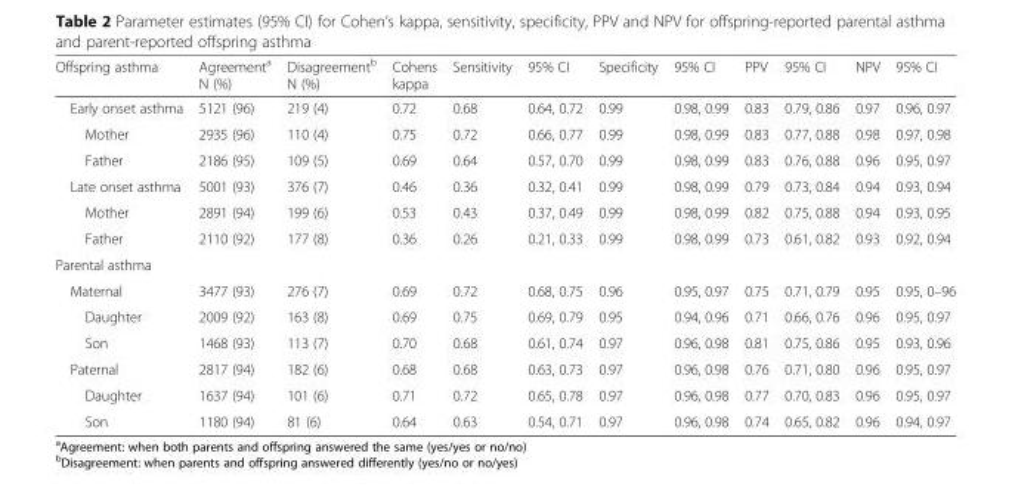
<table><thead><tr><td>Offspring asthma</td><td>Agreement<sup>a</sup> N (%)</td><td>Disagreement<sup>b</sup> N (%)</td><td>Cohens kappa</td><td>Sensitivity</td><td>95% CI</td><td>Specificity</td><td>95% CI</td><td>PPV</td><td>95% CI</td><td>NPV</td><td>95% CI</td></tr></thead><tbody><tr><td>Early onset asthma</td><td>5121 (96)</td><td>219 (4)</td><td>0.72</td><td>0.68</td><td>0.64, 0.72</td><td>0.99</td><td>0.98, 0.99</td><td>0.83</td><td>0.79, 0.86</td><td>0.97</td><td>0.96, 0.97</td></tr><tr><td>Mother</td><td>2935 (96)</td><td>110 (4)</td><td>0.75</td><td>0.72</td><td>0.66, 0.77</td><td>0.99</td><td>0.98, 0.99</td><td>0.83</td><td>0.77, 0.88</td><td>0.98</td><td>0.97, 0.98</td></tr><tr><td>Father</td><td>2186 (95)</td><td>109 (5)</td><td>0.69</td><td>0.64</td><td>0.57, 0.70</td><td>0.99</td><td>0.98, 0.99</td><td>0.83</td><td>0.76, 0.88</td><td>0.96</td><td>0.95, 0.97</td></tr><tr><td>Late onset asthma</td><td>5001 (93)</td><td>376 (7)</td><td>0.46</td><td>0.36</td><td>0.32, 0.41</td><td>0.99</td><td>0.98, 0.99</td><td>0.79</td><td>0.73, 0.84</td><td>0.94</td><td>0.93, 0.94</td></tr><tr><td>Mother</td><td>2891 (94)</td><td>199 (6)</td><td>0.53</td><td>0.43</td><td>0.37, 0.49</td><td>0.99</td><td>0.98, 0.99</td><td>0.82</td><td>0.75, 0.88</td><td>0.94</td><td>0.93, 0.95</td></tr><tr><td>Father</td><td>2110 (92)</td><td>177 (8)</td><td>0.36</td><td>0.26</td><td>0.21, 0.33</td><td>0.99</td><td>0.98, 0.99</td><td>0.73</td><td>0.61, 0.82</td><td>0.93</td><td>0.92, 0.94</td></tr><tr><td colspan="12">Parental asthma</td></tr><tr><td>Maternal</td><td>3477 (93)</td><td>276 (7)</td><td>0.69</td><td>0.72</td><td>0.68, 0.75</td><td>0.96</td><td>0.95, 0.97</td><td>0.75</td><td>0.71, 0.79</td><td>0.95</td><td>0.95, 0–96</td></tr><tr><td>Daughter</td><td>2009 (92)</td><td>163 (8)</td><td>0.69</td><td>0.75</td><td>0.69, 0.79</td><td>0.95</td><td>0.94, 0.96</td><td>0.71</td><td>0.66, 0.76</td><td>0.96</td><td>0.95, 0.97</td></tr><tr><td>Son</td><td>1468 (93)</td><td>113 (7)</td><td>0.70</td><td>0.68</td><td>0.61, 0.74</td><td>0.97</td><td>0.96, 0.98</td><td>0.81</td><td>0.75, 0.86</td><td>0.95</td><td>0.93, 0.96</td></tr><tr><td>Paternal</td><td>2817 (94)</td><td>182 (6)</td><td>0.68</td><td>0.68</td><td>0.63, 0.73</td><td>0.97</td><td>0.96, 0.98</td><td>0.76</td><td>0.71, 0.80</td><td>0.96</td><td>0.95, 0.97</td></tr><tr><td>Daughter</td><td>1637 (94)</td><td>101 (6)</td><td>0.71</td><td>0.72</td><td>0.65, 0.78</td><td>0.97</td><td>0.96, 0.98</td><td>0.77</td><td>0.70, 0.83</td><td>0.96</td><td>0.95, 0.97</td></tr><tr><td>Son</td><td>1180 (94)</td><td>81 (6)</td><td>0.64</td><td>0.63</td><td>0.54, 0.71</td><td>0.97</td><td>0.96, 0.98</td><td>0.74</td><td>0.65, 0.82</td><td>0.96</td><td>0.94, 0.97</td></tr></tbody></table>